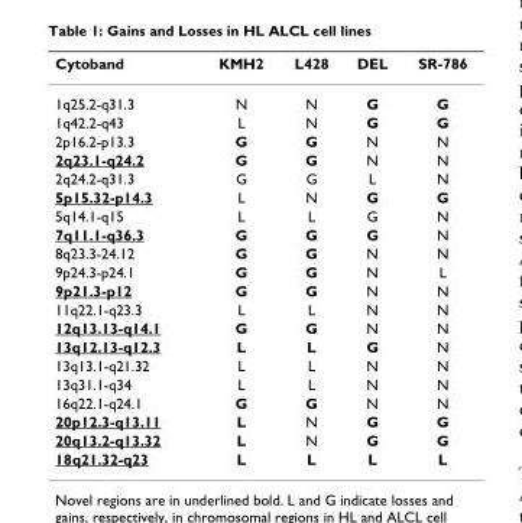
<table><thead><tr><td>Cytoband</td><td>KMH2</td><td>L428</td><td>DEL</td><td>SR-786</td></tr></thead><tbody><tr><td>1q25.2-q31.3</td><td>N</td><td>N</td><td>G</td><td>G</td></tr><tr><td>1q42.2-q43</td><td>L</td><td>N</td><td>G</td><td>G</td></tr><tr><td>2p16.2-p13.3</td><td>G</td><td>G</td><td>N</td><td>N</td></tr><tr><td>2q23.1-q24.2</td><td>G</td><td>G</td><td>N</td><td>N</td></tr><tr><td>2q24.2-q31.3</td><td>G</td><td>G</td><td>L</td><td>N</td></tr><tr><td>5p15.32-p14.3</td><td>L</td><td>N</td><td>G</td><td>G</td></tr><tr><td>5q14.1-q15</td><td>L</td><td>L</td><td>G</td><td>N</td></tr><tr><td>7q11.1-q36.3</td><td>G</td><td>G</td><td>G</td><td>N</td></tr><tr><td>8q23.3-24.12</td><td>G</td><td>G</td><td>N</td><td>N</td></tr><tr><td>9p24.3-p24.1</td><td>G</td><td>G</td><td>N</td><td>L</td></tr><tr><td>9p21.3-p12</td><td>G</td><td>G</td><td>N</td><td>N</td></tr><tr><td>11q22.1-q23.3</td><td>L</td><td>L</td><td>N</td><td>N</td></tr><tr><td>12q13.13-q14.1</td><td>G</td><td>G</td><td>N</td><td>N</td></tr><tr><td>13q12.13-q12.3</td><td>L</td><td>L</td><td>G</td><td>N</td></tr><tr><td>13q13.1-q21.32</td><td>L</td><td>L</td><td>N</td><td>N</td></tr><tr><td>13q31.1-q34</td><td>L</td><td>L</td><td>N</td><td>N</td></tr><tr><td>16q22.1-q24.1</td><td>G</td><td>G</td><td>N</td><td>N</td></tr><tr><td>20p12.3-q13.11</td><td>L</td><td>N</td><td>G</td><td>G</td></tr><tr><td>20q13.2-q13.32</td><td>L</td><td>N</td><td>G</td><td>G</td></tr><tr><td>18q21.32-q23</td><td>L</td><td>L</td><td>L</td><td>L</td></tr></tbody></table>